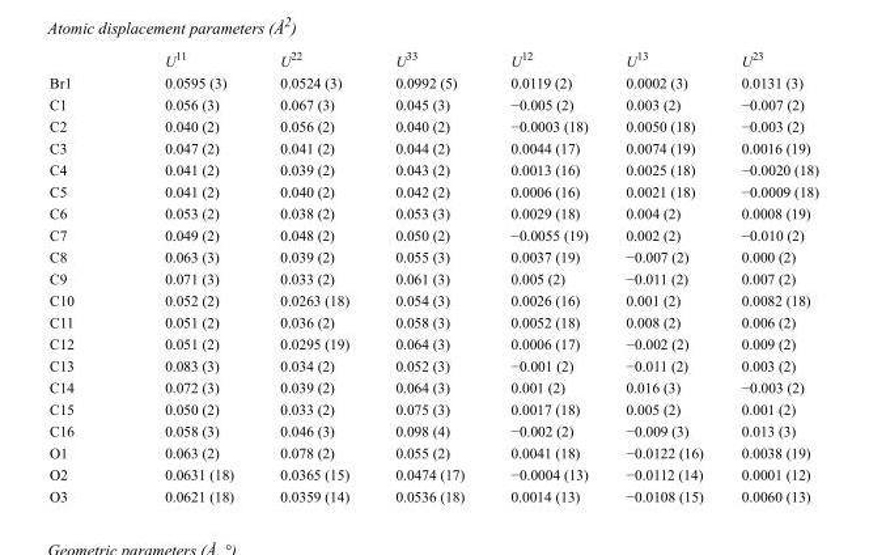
<table><thead><tr><td></td><td>U<sup>11</sup></td><td>U<sup>22</sup></td><td>U<sup>33</sup></td><td>U<sup>12</sup></td><td>U<sup>13</sup></td><td>U<sup>23</sup></td></tr></thead><tbody><tr><td>Br1</td><td>0.0595 (3)</td><td>0.0524 (3)</td><td>0.0992 (5)</td><td>0.0119 (2)</td><td>0.0002 (3)</td><td>0.0131 (3)</td></tr><tr><td>C1</td><td>0.056 (3)</td><td>0.067 (3)</td><td>0.045 (3)</td><td>−0.005 (2)</td><td>0.003 (2)</td><td>−0.007 (2)</td></tr><tr><td>C2</td><td>0.040 (2)</td><td>0.056 (2)</td><td>0.040 (2)</td><td>−0.0003 (18)</td><td>0.0050 (18)</td><td>−0.003 (2)</td></tr><tr><td>C3</td><td>0.047 (2)</td><td>0.041 (2)</td><td>0.044 (2)</td><td>0.0044 (17)</td><td>0.0074 (19)</td><td>0.0016 (19)</td></tr><tr><td>C4</td><td>0.041 (2)</td><td>0.039 (2)</td><td>0.043 (2)</td><td>0.0013 (16)</td><td>0.0025 (18)</td><td>−0.0020 (18)</td></tr><tr><td>C5</td><td>0.041 (2)</td><td>0.040 (2)</td><td>0.042 (2)</td><td>0.0006 (16)</td><td>0.0021 (18)</td><td>−0.0009 (18)</td></tr><tr><td>C6</td><td>0.053 (2)</td><td>0.038 (2)</td><td>0.053 (3)</td><td>0.0029 (18)</td><td>0.004 (2)</td><td>0.0008 (19)</td></tr><tr><td>C7</td><td>0.049 (2)</td><td>0.048 (2)</td><td>0.050 (2)</td><td>−0.0055 (19)</td><td>0.002 (2)</td><td>−0.010 (2)</td></tr><tr><td>C8</td><td>0.063 (3)</td><td>0.039 (2)</td><td>0.055 (3)</td><td>0.0037 (19)</td><td>−0.007 (2)</td><td>0.000 (2)</td></tr><tr><td>C9</td><td>0.071 (3)</td><td>0.033 (2)</td><td>0.061 (3)</td><td>0.005 (2)</td><td>−0.011 (2)</td><td>0.007 (2)</td></tr><tr><td>C10</td><td>0.052 (2)</td><td>0.0263 (18)</td><td>0.054 (3)</td><td>0.0026 (16)</td><td>0.001 (2)</td><td>0.0082 (18)</td></tr><tr><td>C11</td><td>0.051 (2)</td><td>0.036 (2)</td><td>0.058 (3)</td><td>0.0052 (18)</td><td>0.008 (2)</td><td>0.006 (2)</td></tr><tr><td>C12</td><td>0.051 (2)</td><td>0.0295 (19)</td><td>0.064 (3)</td><td>0.0006 (17)</td><td>−0.002 (2)</td><td>0.009 (2)</td></tr><tr><td>C13</td><td>0.083 (3)</td><td>0.034 (2)</td><td>0.052 (3)</td><td>−0.001 (2)</td><td>−0.011 (2)</td><td>0.003 (2)</td></tr><tr><td>C14</td><td>0.072 (3)</td><td>0.039 (2)</td><td>0.064 (3)</td><td>0.001 (2)</td><td>0.016 (3)</td><td>−0.003 (2)</td></tr><tr><td>C15</td><td>0.050 (2)</td><td>0.033 (2)</td><td>0.075 (3)</td><td>0.0017 (18)</td><td>0.005 (2)</td><td>0.001 (2)</td></tr><tr><td>C16</td><td>0.058 (3)</td><td>0.046 (3)</td><td>0.098 (4)</td><td>−0.002 (2)</td><td>−0.009 (3)</td><td>0.013 (3)</td></tr><tr><td>O1</td><td>0.063 (2)</td><td>0.078 (2)</td><td>0.055 (2)</td><td>0.0041 (18)</td><td>−0.0122 (16)</td><td>0.0038 (19)</td></tr><tr><td>O2</td><td>0.0631 (18)</td><td>0.0365 (15)</td><td>0.0474 (17)</td><td>−0.0004 (13)</td><td>−0.0112 (14)</td><td>0.0001 (12)</td></tr><tr><td>O3</td><td>0.0621 (18)</td><td>0.0359 (14)</td><td>0.0536 (18)</td><td>0.0014 (13)</td><td>−0.0108 (15)</td><td>0.0060 (13)</td></tr></tbody></table>